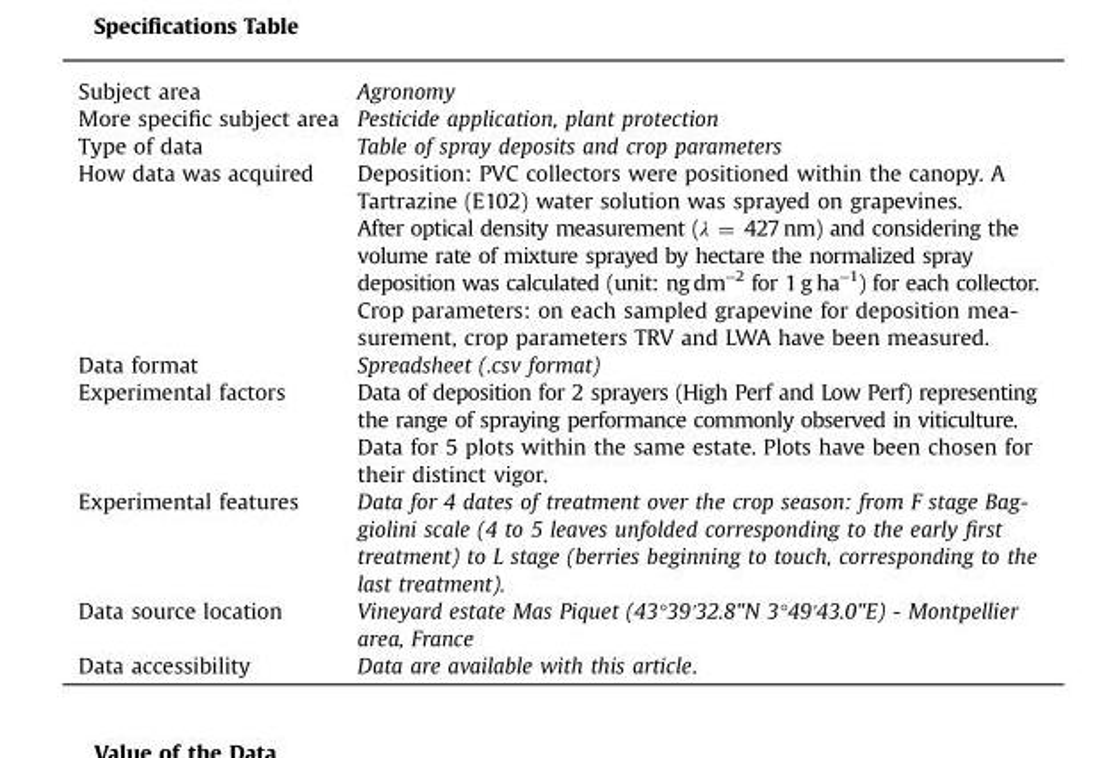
<table><tbody><tr><td>Subject area</td><td>Agronomy</td></tr><tr><td>More specific subject area</td><td>Pesticide application, plant protection</td></tr><tr><td>Type of data</td><td>Table of spray deposits and crop parameters</td></tr><tr><td rowspan="3">How data was acquired</td><td>Deposition: PVC collectors were positioned within the canopy. A Tartrazine (E102) water solution was sprayed on grapevines.</td></tr><tr><td>After optical density measurement (λ = 427 nm) and considering the volume rate of mixture sprayed by hectare the normalized spray deposition was calculated (unit: ng dm<sup>−2</sup> for 1 g ha<sup>−1</sup>) for each collector.</td></tr><tr><td>Crop parameters: on each sampled grapevine for deposition mea- surement, crop parameters TRV and LWA have been measured.</td></tr><tr><td>Data format</td><td>Spreadsheet (.csv format)</td></tr><tr><td rowspan="2">Experimental factors</td><td>Data of deposition for 2 sprayers (High Perf and Low Perf) representing the range of spraying performance commonly observed in viticulture.</td></tr><tr><td>Data for 5 plots within the same estate. Plots have been chosen for their distinct vigor.</td></tr><tr><td>Experimental features</td><td>Data for 4 dates of treatment over the crop season: from F stage Bag- giolini scale (4 to 5 leaves unfolded corresponding to the early first treatment) to L stage (berries beginning to touch, corresponding to the last treatment).</td></tr><tr><td>Data source location</td><td>Vineyard estate Mas Piquet (43°39&#x27;32.8&quot;N 3°49&#x27;43.0&quot;E) - Montpellier area, France</td></tr><tr><td>Data accessibility</td><td>Data are available with this article.</td></tr></tbody></table>